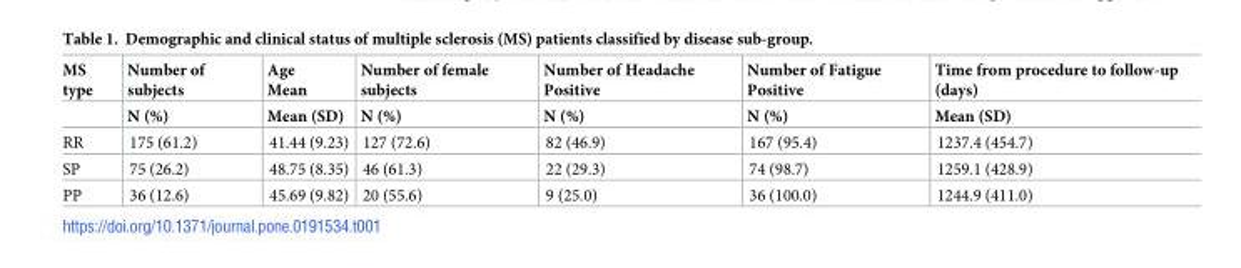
<table><thead><tr><td rowspan="2">MS type</td><td rowspan="2">Number of subjects N (%)</td><td rowspan="2">Age Mean Mean (SD)</td><td rowspan="2">Number of female subjects N (%)</td><td rowspan="2">Number of Headache Positive N (%)</td><td rowspan="2">Number of Fatigue Positive N (%)</td><td rowspan="2">Time from procedure to follow-up (days) Mean (SD)</td></tr><tr></tr></thead><tbody><tr><td>RR</td><td>175 (61.2)</td><td>41.44 (9.23)</td><td>127 (72.6)</td><td>82 (46.9)</td><td>167 (95.4)</td><td>1237.4 (454.7)</td></tr><tr><td>SP</td><td>75 (26.2)</td><td>48.75 (8.35)</td><td>46 (61.3)</td><td>22 (29.3)</td><td>74 (98.7)</td><td>1259.1 (428.9)</td></tr><tr><td>PP</td><td>36 (12.6)</td><td>45.69 (9.82)</td><td>20 (55.6)</td><td>9 (25.0)</td><td>36 (100.0)</td><td>1244.9 (411.0)</td></tr></tbody></table>